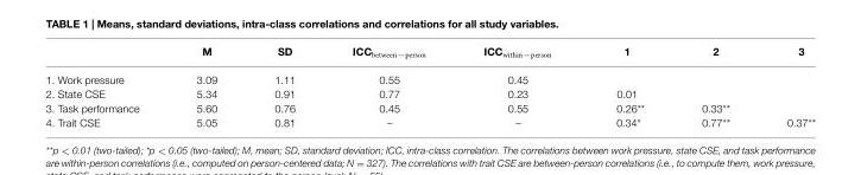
<table><thead><tr><td></td><td>M</td><td>SD</td><td>ICC<sub>between−person</sub></td><td>ICC<sub>within−person</sub></td><td>1</td><td>2</td><td>3</td></tr></thead><tbody><tr><td>1. Work pressure</td><td>3.09</td><td>1.11</td><td>0.55</td><td>0.45</td><td></td><td></td><td></td></tr><tr><td>2. State CSE</td><td>5.34</td><td>0.91</td><td>0.77</td><td>0.23</td><td>0.01</td><td></td><td></td></tr><tr><td>3. Task performance</td><td>5.60</td><td>0.76</td><td>0.45</td><td>0.55</td><td>0.26**</td><td>0.33**</td><td></td></tr><tr><td>4. Trait CSE</td><td>5.05</td><td>0.81</td><td>–</td><td>–</td><td>0.34*</td><td>0.77**</td><td>0.37**</td></tr></tbody></table>